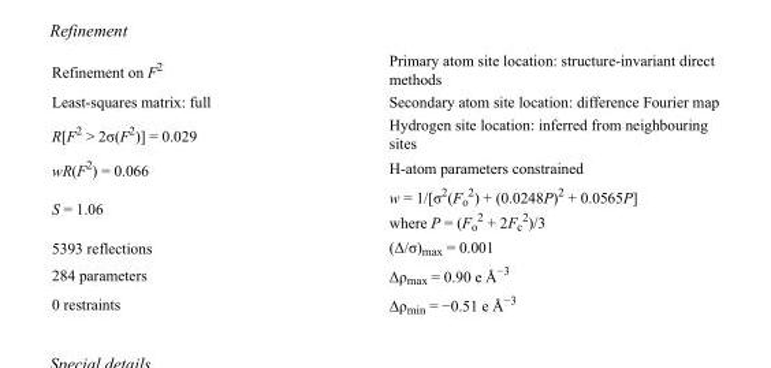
<table><tbody><tr><td>Refinement on F<sup>2</sup></td><td>Primary atom site location: structure-invariant direct methods</td></tr><tr><td>Least-squares matrix: full</td><td>Secondary atom site location: difference Fourier map</td></tr><tr><td>R[F<sup>2</sup> &gt; 2σ(F<sup>2</sup>)] = 0.029</td><td>Hydrogen site location: inferred from neighbouring sites</td></tr><tr><td>wR(F<sup>2</sup>) = 0.066</td><td>H-atom parameters constrained</td></tr><tr><td>S = 1.06</td><td>w = 1/[σ<sup>2</sup>(F<sub>o</sub> <sup>2</sup>) + (0.0248P)<sup>2</sup> + 0.0565P] where P = (F<sub>o</sub> <sup>2</sup> + 2F<sub>c</sub> <sup>2</sup>)/3</td></tr><tr><td>5393 reflections</td><td>(Δ/σ)<sub>max</sub> = 0.001</td></tr><tr><td>284 parameters</td><td>Δρ<sub>max</sub> = 0.90 e Å<sup>−3</sup></td></tr><tr><td>0 restraints</td><td>Δρ<sub>min</sub> = −0.51 e Å<sup>−3</sup></td></tr></tbody></table>